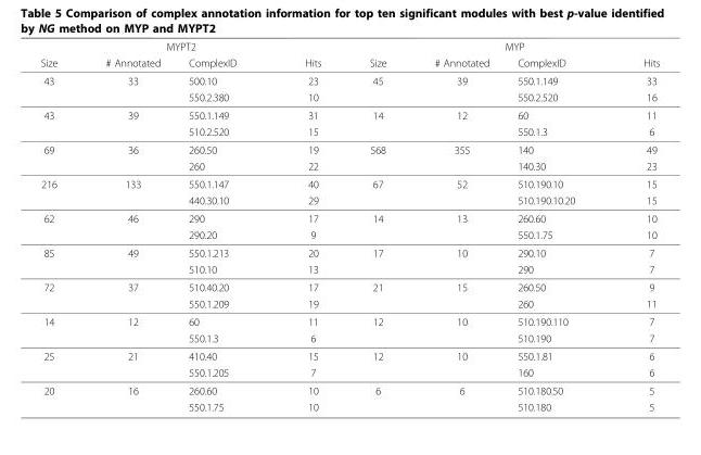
<table><thead><tr><td colspan="4">MYPT2</td><td colspan="4">MYP</td></tr><tr><td>Size</td><td># Annotated</td><td>ComplexID</td><td>Hits</td><td>Size</td><td># Annotated</td><td>ComplexID</td><td>Hits</td></tr></thead><tbody><tr><td rowspan="2">43</td><td rowspan="2">33</td><td>500.10</td><td>23</td><td rowspan="2">45</td><td rowspan="2">39</td><td>550.1.149</td><td>33</td></tr><tr><td>550.2.380</td><td>10</td><td>550.2.520</td><td>16</td></tr><tr><td rowspan="2">43</td><td rowspan="2">39</td><td>550.1.149</td><td>31</td><td rowspan="2">14</td><td rowspan="2">12</td><td>60</td><td>11</td></tr><tr><td>510.2.520</td><td>15</td><td>550.1.3</td><td>6</td></tr><tr><td rowspan="2">69</td><td rowspan="2">36</td><td>260.50</td><td>19</td><td rowspan="2">568</td><td rowspan="2">355</td><td>140</td><td>49</td></tr><tr><td>260</td><td>22</td><td>140.30</td><td>23</td></tr><tr><td rowspan="2">216</td><td rowspan="2">133</td><td>550.1.147</td><td>40</td><td rowspan="2">67</td><td rowspan="2">52</td><td>510.190.10</td><td>15</td></tr><tr><td>440.30.10</td><td>29</td><td>510.190.10.20</td><td>15</td></tr><tr><td rowspan="2">62</td><td rowspan="2">46</td><td>290</td><td>17</td><td rowspan="2">14</td><td rowspan="2">13</td><td>260.60</td><td>10</td></tr><tr><td>290.20</td><td>9</td><td>550.1.75</td><td>10</td></tr><tr><td rowspan="2">85</td><td rowspan="2">49</td><td>550.1.213</td><td>20</td><td rowspan="2">17</td><td rowspan="2">10</td><td>290.10</td><td>7</td></tr><tr><td>510.10</td><td>13</td><td>290</td><td>7</td></tr><tr><td rowspan="2">72</td><td rowspan="2">37</td><td>510.40.20</td><td>17</td><td rowspan="2">21</td><td rowspan="2">15</td><td>260.50</td><td>9</td></tr><tr><td>550.1.209</td><td>19</td><td>260</td><td>11</td></tr><tr><td rowspan="2">14</td><td rowspan="2">12</td><td>60</td><td>11</td><td rowspan="2">12</td><td rowspan="2">10</td><td>510.190.110</td><td>7</td></tr><tr><td>550.1.3</td><td>6</td><td>510.190</td><td>7</td></tr><tr><td rowspan="2">25</td><td rowspan="2">21</td><td>410.40</td><td>15</td><td rowspan="2">12</td><td rowspan="2">10</td><td>550.1.81</td><td>6</td></tr><tr><td>550.1.205</td><td>7</td><td>160</td><td>6</td></tr><tr><td rowspan="2">20</td><td rowspan="2">16</td><td>260.60</td><td>10</td><td rowspan="2">6</td><td rowspan="2">6</td><td>510.180.50</td><td>5</td></tr><tr><td>550.1.75</td><td>10</td><td>510.180</td><td>5</td></tr></tbody></table>